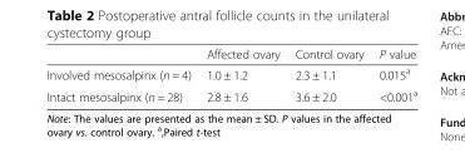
<table><thead><tr><td></td><td>Affected ovary</td><td>Control ovary</td><td>P value</td></tr></thead><tbody><tr><td>Involved mesosalpinx (n = 4)</td><td>1.0 ± 1.2</td><td>2.3 ± 1.1</td><td>0.015<sup>a</sup></td></tr><tr><td>Intact mesosalpinx (n = 28)</td><td>2.8 ± 1.6</td><td>3.6 ± 2.0</td><td>&lt;0.001<sup>a</sup></td></tr></tbody></table>